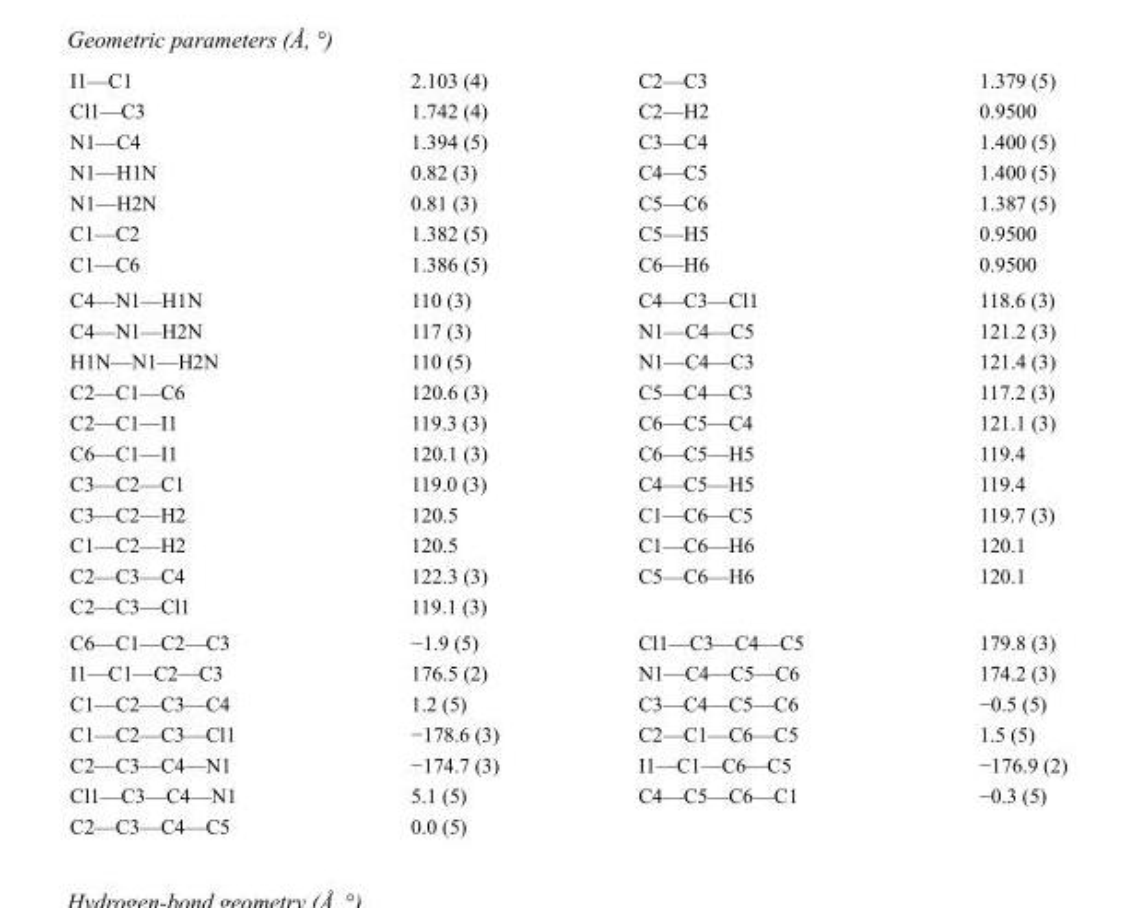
<table><tbody><tr><td>I1—C1</td><td>2.103 (4)</td><td>C2—C3</td><td>1.379 (5)</td></tr><tr><td>Cl1—C3</td><td>1.742 (4)</td><td>C2—H2</td><td>0.9500</td></tr><tr><td>N1—C4</td><td>1.394 (5)</td><td>C3—C4</td><td>1.400 (5)</td></tr><tr><td>N1—H1N</td><td>0.82 (3)</td><td>C4—C5</td><td>1.400 (5)</td></tr><tr><td>N1—H2N</td><td>0.81 (3)</td><td>C5—C6</td><td>1.387 (5)</td></tr><tr><td>C1—C2</td><td>1.382 (5)</td><td>C5—H5</td><td>0.9500</td></tr><tr><td>C1—C6</td><td>1.386 (5)</td><td>C6—H6</td><td>0.9500</td></tr><tr><td>C4—N1—H1N</td><td>110 (3)</td><td>C4—C3—Cl1</td><td>118.6 (3)</td></tr><tr><td>C4—N1—H2N</td><td>117 (3)</td><td>N1—C4—C5</td><td>121.2 (3)</td></tr><tr><td>H1N—N1—H2N</td><td>110 (5)</td><td>N1—C4—C3</td><td>121.4 (3)</td></tr><tr><td>C2—C1—C6</td><td>120.6 (3)</td><td>C5—C4—C3</td><td>117.2 (3)</td></tr><tr><td>C2—C1—I1</td><td>119.3 (3)</td><td>C6—C5—C4</td><td>121.1 (3)</td></tr><tr><td>C6—C1—I1</td><td>120.1 (3)</td><td>C6—C5—H5</td><td>119.4</td></tr><tr><td>C3—C2—C1</td><td>119.0 (3)</td><td>C4—C5—H5</td><td>119.4</td></tr><tr><td>C3—C2—H2</td><td>120.5</td><td>C1—C6—C5</td><td>119.7 (3)</td></tr><tr><td>C1—C2—H2</td><td>120.5</td><td>C1—C6—H6</td><td>120.1</td></tr><tr><td>C2—C3—C4</td><td>122.3 (3)</td><td>C5—C6—H6</td><td>120.1</td></tr><tr><td>C2—C3—Cl1</td><td>119.1 (3)</td><td></td><td></td></tr><tr><td>C6—C1—C2—C3</td><td>−1.9 (5)</td><td>Cl1—C3—C4—C5</td><td>179.8 (3)</td></tr><tr><td>I1—C1—C2—C3</td><td>176.5 (2)</td><td>N1—C4—C5—C6</td><td>174.2 (3)</td></tr><tr><td>C1—C2—C3—C4</td><td>1.2 (5)</td><td>C3—C4—C5—C6</td><td>−0.5 (5)</td></tr><tr><td>C1—C2—C3—Cl1</td><td>−178.6 (3)</td><td>C2—C1—C6—C5</td><td>1.5 (5)</td></tr><tr><td>C2—C3—C4—N1</td><td>−174.7 (3)</td><td>I1—C1—C6—C5</td><td>−176.9 (2)</td></tr><tr><td>Cl1—C3—C4—N1</td><td>5.1 (5)</td><td>C4—C5—C6—C1</td><td>−0.3 (5)</td></tr><tr><td>C2—C3—C4—C5</td><td>0.0 (5)</td><td></td><td></td></tr></tbody></table>